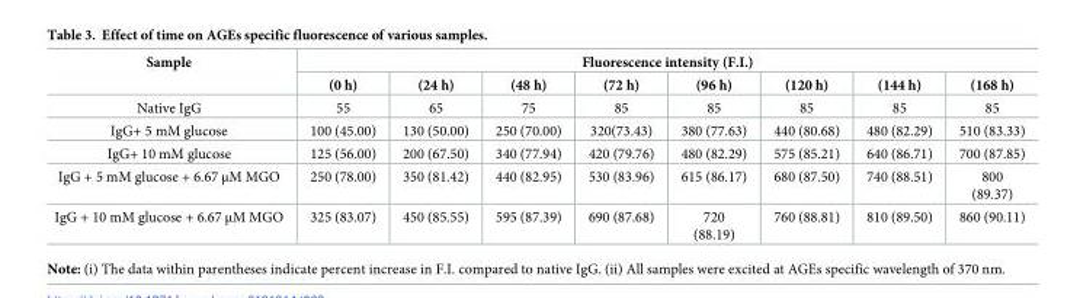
<table><thead><tr><td rowspan="2">Sample</td><td colspan="8">Fluorescence intensity (F.I.)</td></tr><tr><td>(0 h)</td><td>(24 h)</td><td>(48 h)</td><td>(72 h)</td><td>(96 h)</td><td>(120 h)</td><td>(144 h)</td><td>(168 h)</td></tr></thead><tbody><tr><td>Native IgG</td><td>55</td><td>65</td><td>75</td><td>85</td><td>85</td><td>85</td><td>85</td><td>85</td></tr><tr><td>IgG+ 5 mM glucose</td><td>100 (45.00)</td><td>130 (50.00)</td><td>250 (70.00)</td><td>320(73.43)</td><td>380 (77.63)</td><td>440 (80.68)</td><td>480 (82.29)</td><td>510 (83.33)</td></tr><tr><td>IgG+ 10 mM glucose</td><td>125 (56.00)</td><td>200 (67.50)</td><td>340 (77.94)</td><td>420 (79.76)</td><td>480 (82.29)</td><td>575 (85.21)</td><td>640 (86.71)</td><td>700 (87.85)</td></tr><tr><td>IgG + 5 mM glucose + 6.67 μM MGO</td><td>250 (78.00)</td><td>350 (81.42)</td><td>440 (82.95)</td><td>530 (83.96)</td><td>615 (86.17)</td><td>680 (87.50)</td><td>740 (88.51)</td><td>800 (89.37)</td></tr><tr><td>IgG + 10 mM glucose + 6.67 μM MGO</td><td>325 (83.07)</td><td>450 (85.55)</td><td>595 (87.39)</td><td>690 (87.68)</td><td>720 (88.19)</td><td>760 (88.81)</td><td>810 (89.50)</td><td>860 (90.11)</td></tr></tbody></table>